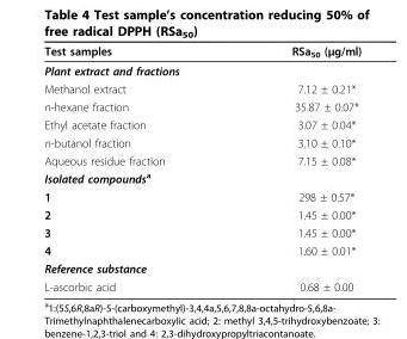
<table><thead><tr><td>Test samples</td><td>RSa<sub>50</sub> (μg/ml)</td></tr></thead><tbody><tr><td colspan="2">Plant extract and fractions</td></tr><tr><td>Methanol extract</td><td>7.12 ± 0.21*</td></tr><tr><td>n-hexane fraction</td><td>35.87 ± 0.07*</td></tr><tr><td>Ethyl acetate fraction</td><td>3.07 ± 0.04*</td></tr><tr><td>n-butanol fraction</td><td>3.10 ± 0.10*</td></tr><tr><td>Aqueous residue fraction</td><td>7.15 ± 0.08*</td></tr><tr><td colspan="2">Isolated compounds<sup>a</sup></td></tr><tr><td>1</td><td>298 ± 0.57*</td></tr><tr><td>2</td><td>1.45 ± 0.00*</td></tr><tr><td>3</td><td>1.45 ± 0.00*</td></tr><tr><td>4</td><td>1.60 ± 0.01*</td></tr><tr><td colspan="2">Reference substance</td></tr><tr><td>L-ascorbic acid</td><td>0.68 ± 0.00</td></tr></tbody></table>